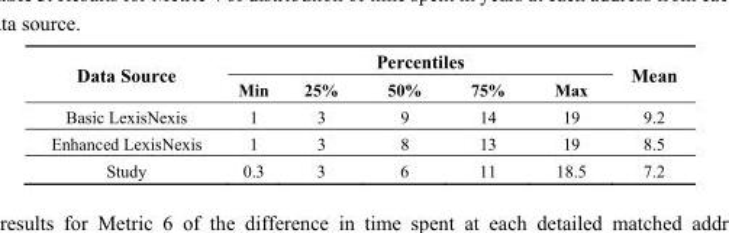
<table><thead><tr><td rowspan="2">Data Source</td><td colspan="5">Percentiles</td><td rowspan="2">Mean</td></tr><tr><td>Min</td><td>25%</td><td>50%</td><td>75%</td><td>Max</td></tr></thead><tbody><tr><td>Basic LexisNexis</td><td>1</td><td>3</td><td>9</td><td>14</td><td>19</td><td>9.2</td></tr><tr><td>Enhanced LexisNexis</td><td>1</td><td>3</td><td>8</td><td>13</td><td>19</td><td>8.5</td></tr><tr><td>Study</td><td>0.3</td><td>3</td><td>6</td><td>11</td><td>18.5</td><td>7.2</td></tr></tbody></table>